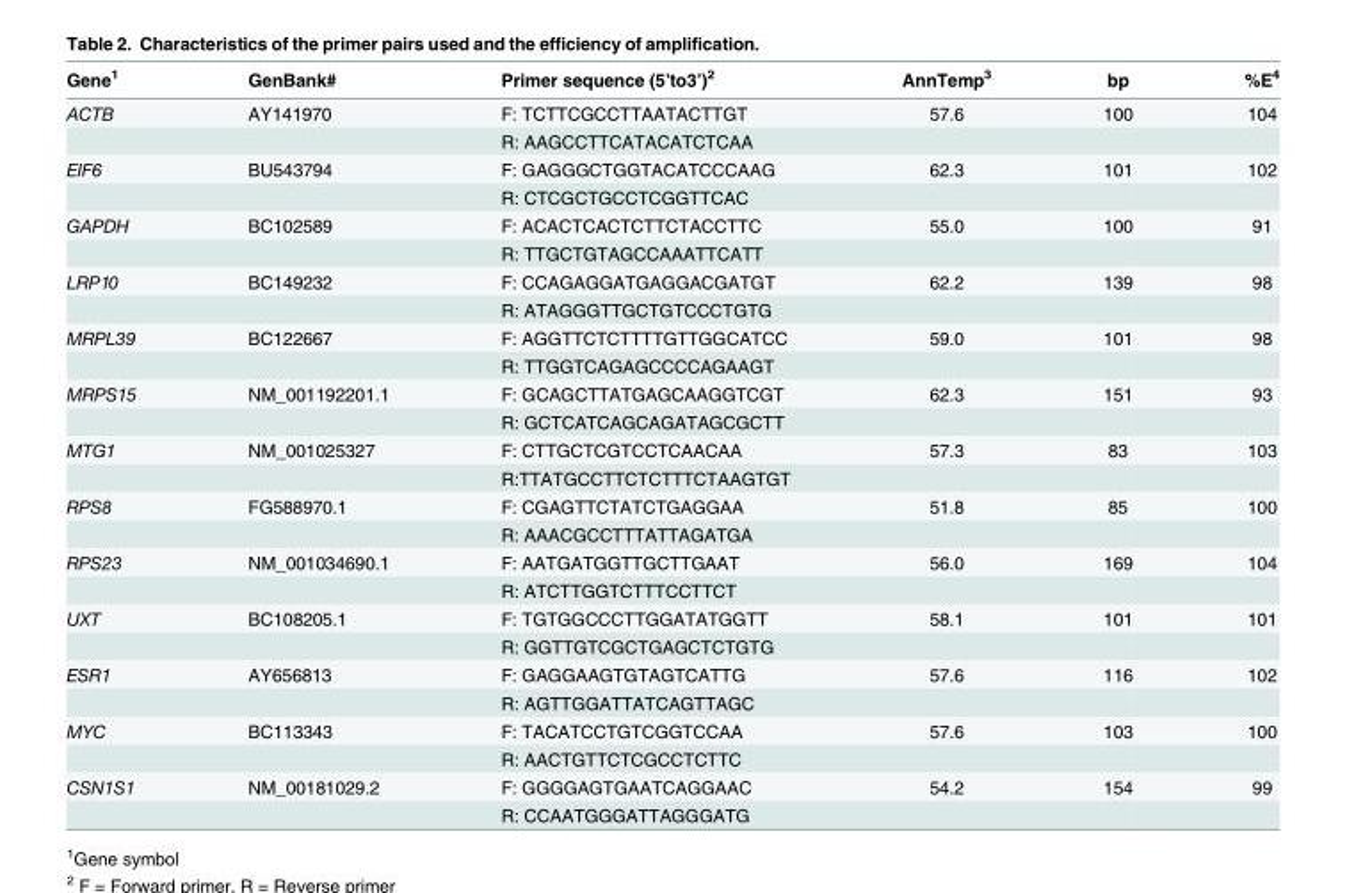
<table><thead><tr><td>Gene<sup>1</sup></td><td>GenBank#</td><td>Primer sequence (5’to3’)<sup>2</sup></td><td>AnnTemp<sup>3</sup></td><td>bp</td><td>%E<sup>4</sup></td></tr></thead><tbody><tr><td rowspan="2">ACTB</td><td>AY141970</td><td>F: TCTTCGCCTTAATACTTGT</td><td>57.6</td><td>100</td><td>104</td></tr><tr><td></td><td>R: AAGCCTTCATACATCTCAA</td><td></td><td></td><td></td></tr><tr><td rowspan="2">EIF6</td><td>BU543794</td><td>F: GAGGGCTGGTACATCCCAAG</td><td>62.3</td><td>101</td><td>102</td></tr><tr><td></td><td>R: CTCGCTGCCTCGGTTCAC</td><td></td><td></td><td></td></tr><tr><td rowspan="2">GAPDH</td><td>BC102589</td><td>F: ACACTCACTCTTCTACCTTC</td><td>55.0</td><td>100</td><td>91</td></tr><tr><td></td><td>R: TTGCTGTAGCCAAATTCATT</td><td></td><td></td><td></td></tr><tr><td rowspan="2">LRP10</td><td>BC149232</td><td>F: CCAGAGGATGAGGACGATGT</td><td>62.2</td><td>139</td><td>98</td></tr><tr><td></td><td>R: ATAGGGTTGCTGTCCCTGTG</td><td></td><td></td><td></td></tr><tr><td rowspan="2">MRPL39</td><td>BC122667</td><td>F: AGGTTCTCTTTTGTTGGCATCC</td><td>59.0</td><td>101</td><td>98</td></tr><tr><td></td><td>R: TTGGTCAGAGCCCCAGAAGT</td><td></td><td></td><td></td></tr><tr><td rowspan="2">MRPS15</td><td>NM_001192201.1</td><td>F: GCAGCTTATGAGCAAGGTCGT</td><td>62.3</td><td>151</td><td>93</td></tr><tr><td></td><td>R: GCTCATCAGCAGATAGCGCTT</td><td></td><td></td><td></td></tr><tr><td rowspan="2">MTG1</td><td>NM_001025327</td><td>F: CTTGCTCGTCCTCAACAA</td><td>57.3</td><td>83</td><td>103</td></tr><tr><td></td><td>R:TTATGCCTTCTCTTTCTAAGTGT</td><td></td><td></td><td></td></tr><tr><td rowspan="2">RPS8</td><td>FG588970.1</td><td>F: CGAGTTCTATCTGAGGAA</td><td>51.8</td><td>85</td><td>100</td></tr><tr><td></td><td>R: AAACGCCTTTATTAGATGA</td><td></td><td></td><td></td></tr><tr><td rowspan="2">RPS23</td><td>NM_001034690.1</td><td>F: AATGATGGTTGCTTGAAT</td><td>56.0</td><td>169</td><td>104</td></tr><tr><td></td><td>R: ATCTTGGTCTTTCCTTCT</td><td></td><td></td><td></td></tr><tr><td rowspan="2">UXT</td><td>BC108205.1</td><td>F: TGTGGCCCTTGGATATGGTT</td><td>58.1</td><td>101</td><td>101</td></tr><tr><td></td><td>R: GGTTGTCGCTGAGCTCTGTG</td><td></td><td></td><td></td></tr><tr><td rowspan="2">ESR1</td><td>AY656813</td><td>F: GAGGAAGTGTAGTCATTG</td><td>57.6</td><td>116</td><td>102</td></tr><tr><td></td><td>R: AGTTGGATTATCAGTTAGC</td><td></td><td></td><td></td></tr><tr><td rowspan="2">MYC</td><td>BC113343</td><td>F: TACATCCTGTCGGTCCAA</td><td>57.6</td><td>103</td><td>100</td></tr><tr><td></td><td>R: AACTGTTCTCGCCTCTTC</td><td></td><td></td><td></td></tr><tr><td rowspan="2">CSN1S1</td><td>NM_00181029.2</td><td>F: GGGGAGTGAATCAGGAAC</td><td>54.2</td><td>154</td><td>99</td></tr><tr><td></td><td>R: CCAATGGGATTAGGGATG</td><td></td><td></td><td></td></tr></tbody></table>